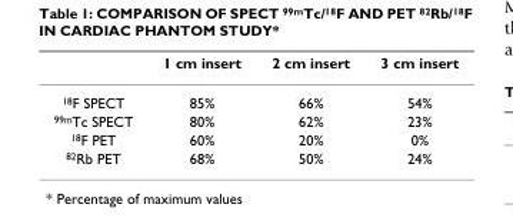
<table><thead><tr><td></td><td>1 cm insert</td><td>2 cm insert</td><td>3 cm insert</td></tr></thead><tbody><tr><td><sup>18</sup>F SPECT</td><td>85%</td><td>66%</td><td>54%</td></tr><tr><td><sup>99m</sup>Tc SPECT</td><td>80%</td><td>62%</td><td>23%</td></tr><tr><td><sup>18</sup>F PET</td><td>60%</td><td>20%</td><td>0%</td></tr><tr><td><sup>82</sup>Rb PET</td><td>68%</td><td>50%</td><td>24%</td></tr></tbody></table>